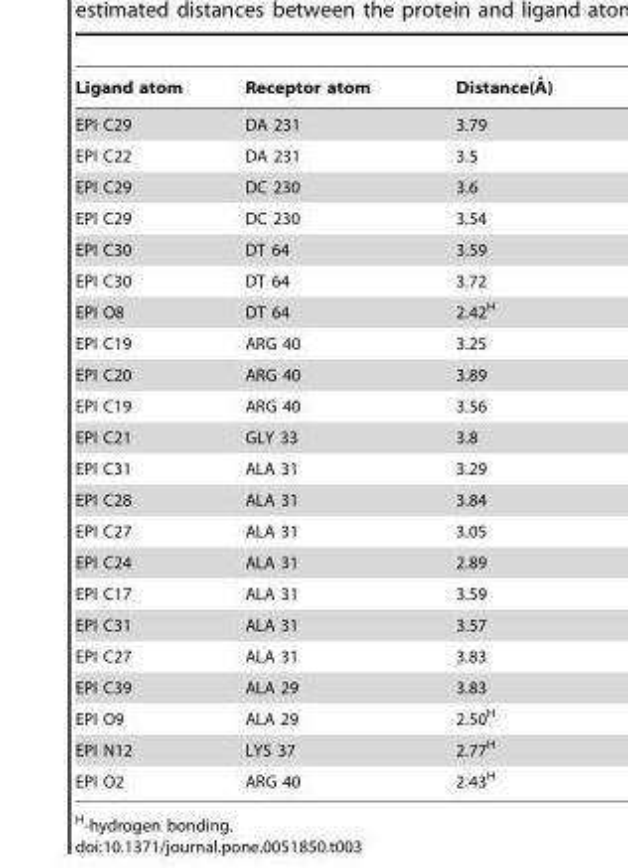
<table><thead><tr><td>Ligand atom</td><td>Receptor atom</td><td>Distance(A˚ )</td></tr></thead><tbody><tr><td>EPI C29</td><td>DA 231</td><td>3.79</td></tr><tr><td>EPI C22</td><td>DA 231</td><td>3.5</td></tr><tr><td>EPI C29</td><td>DC 230</td><td>3.6</td></tr><tr><td>EPI C29</td><td>DC 230</td><td>3.54</td></tr><tr><td>EPI C30</td><td>DT 64</td><td>3.59</td></tr><tr><td>EPI C30</td><td>DT 64</td><td>3.72</td></tr><tr><td>EPI O8</td><td>DT 64</td><td>2.42<sup>H</sup></td></tr><tr><td>EPI C19</td><td>ARG 40</td><td>3.25</td></tr><tr><td>EPI C20</td><td>ARG 40</td><td>3.89</td></tr><tr><td>EPI C19</td><td>ARG 40</td><td>3.56</td></tr><tr><td>EPI C21</td><td>GLY 33</td><td>3.8</td></tr><tr><td>EPI C31</td><td>ALA 31</td><td>3.29</td></tr><tr><td>EPI C28</td><td>ALA 31</td><td>3.84</td></tr><tr><td>EPI C27</td><td>ALA 31</td><td>3.05</td></tr><tr><td>EPI C24</td><td>ALA 31</td><td>2.89</td></tr><tr><td>EPI C17</td><td>ALA 31</td><td>3.59</td></tr><tr><td>EPI C31</td><td>ALA 31</td><td>3.57</td></tr><tr><td>EPI C27</td><td>ALA 31</td><td>3.83</td></tr><tr><td>EPI C39</td><td>ALA 29</td><td>3.83</td></tr><tr><td>EPI O9</td><td>ALA 29</td><td>2.50<sup>H</sup></td></tr><tr><td>EPI N12</td><td>LYS 37</td><td>2.77<sup>H</sup></td></tr><tr><td>EPI O2</td><td>ARG 40</td><td>2.43<sup>H</sup></td></tr></tbody></table>